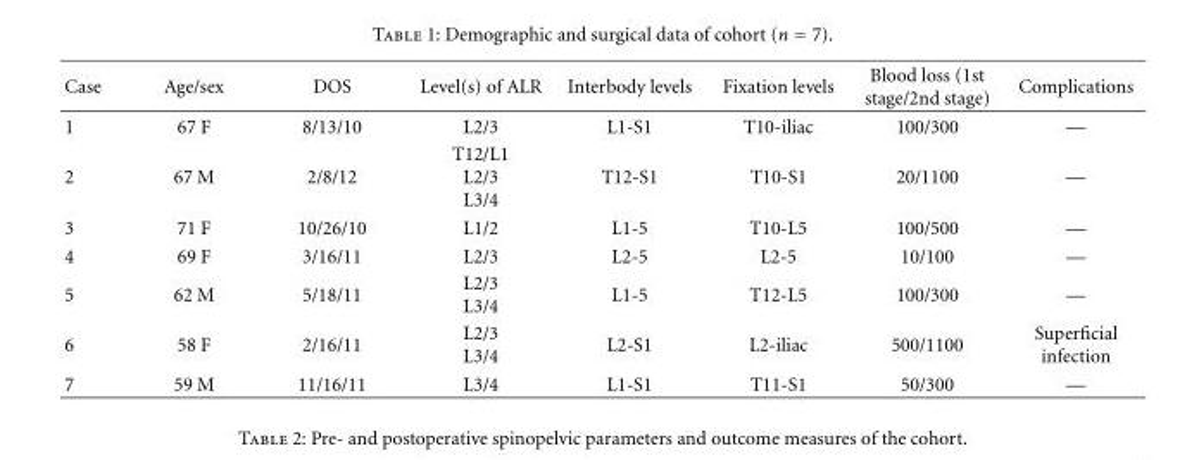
<table><thead><tr><td>Case</td><td>Age/sex</td><td>DOS</td><td>Level(s) of ALR</td><td>Interbody levels</td><td>Fixation levels</td><td>Blood loss (1st stage/2nd stage)</td><td>Complications</td></tr></thead><tbody><tr><td>1</td><td>67 F</td><td>8/13/10</td><td>L2/3</td><td>L1-S1</td><td>T10-iliac</td><td>100/300</td><td>—</td></tr><tr><td>2</td><td>67 M</td><td>2/8/12</td><td>T12/L1 L2/3 L3/4</td><td>T12-S1</td><td>T10-S1</td><td>20/1100</td><td>—</td></tr><tr><td>3</td><td>71 F</td><td>10/26/10</td><td>L1/2</td><td>L1-5</td><td>T10-L5</td><td>100/500</td><td>—</td></tr><tr><td>4</td><td>69 F</td><td>3/16/11</td><td>L2/3</td><td>L2-5</td><td>L2-5</td><td>10/100</td><td>—</td></tr><tr><td>5</td><td>62 M</td><td>5/18/11</td><td>L2/3 L3/4</td><td>L1-5</td><td>T12-L5</td><td>100/300</td><td>—</td></tr><tr><td>6</td><td>58 F</td><td>2/16/11</td><td>L2/3 L3/4</td><td>L2-S1</td><td>L2-iliac</td><td>500/1100</td><td>Superficial infection</td></tr><tr><td>7</td><td>59 M</td><td>11/16/11</td><td>L3/4</td><td>L1-S1</td><td>T11-S1</td><td>50/300</td><td>—</td></tr></tbody></table>